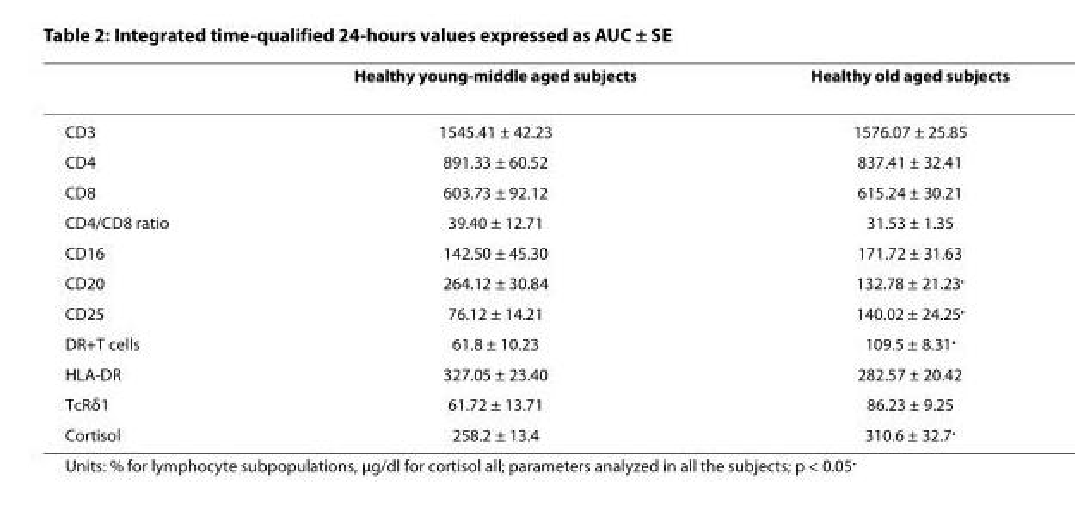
<table><thead><tr><td></td><td>Healthy young-middle aged subjects</td><td>Healthy old aged subjects</td></tr></thead><tbody><tr><td>CD3</td><td>1545.41 ± 42.23</td><td>1576.07 ± 25.85</td></tr><tr><td>CD4</td><td>891.33 ± 60.52</td><td>837.41 ± 32.41</td></tr><tr><td>CD8</td><td>603.73 ± 92.12</td><td>615.24 ± 30.21</td></tr><tr><td>CD4/CD8 ratio</td><td>39.40 ± 12.71</td><td>31.53 ± 1.35</td></tr><tr><td>CD16</td><td>142.50 ± 45.30</td><td>171.72 ± 31.63</td></tr><tr><td>CD20</td><td>264.12 ± 30.84</td><td>132.78 ± 21.23<sup>•</sup></td></tr><tr><td>CD25</td><td>76.12 ± 14.21</td><td>140.02 ± 24.25<sup>•</sup></td></tr><tr><td>DR+T cells</td><td>61.8 ± 10.23</td><td>109.5 ± 8.31<sup>•</sup></td></tr><tr><td>HLA-DR</td><td>327.05 ± 23.40</td><td>282.57 ± 20.42</td></tr><tr><td>TcRδ1</td><td>61.72 ± 13.71</td><td>86.23 ± 9.25</td></tr><tr><td>Cortisol</td><td>258.2 ± 13.4</td><td>310.6 ± 32.7<sup>•</sup></td></tr></tbody></table>